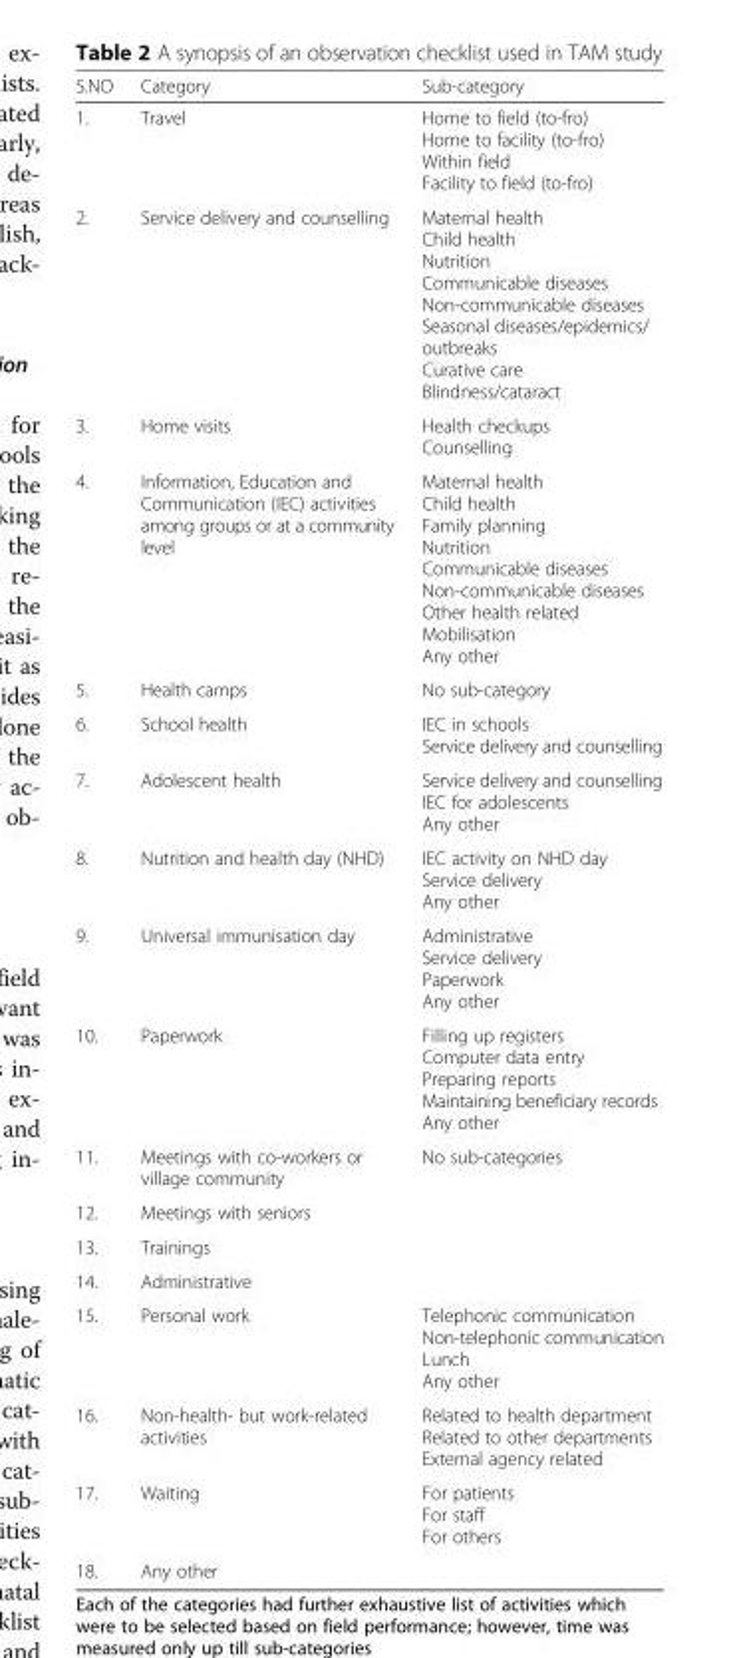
<table><thead><tr><td>S.NO</td><td>Category</td><td>Sub-category</td></tr></thead><tbody><tr><td>1.</td><td>Travel</td><td>Home to field (to-fro) Home to facility (to-fro) Within field Facility to field (to-fro)</td></tr><tr><td>2.</td><td>Service delivery and counselling</td><td>Maternal health Child health Nutrition Communicable diseases Non-communicable diseases Seasonal diseases/epidemics/ outbreaks Curative care Blindness/cataract</td></tr><tr><td>3.</td><td>Home visits</td><td>Health checkups Counselling</td></tr><tr><td>4.</td><td>Information, Education and Communication (IEC) activities among groups or at a community level</td><td>Maternal health Child health Family planning Nutrition Communicable diseases Non-communicable diseases Other health related Mobilisation Any other</td></tr><tr><td>5.</td><td>Health camps</td><td>No sub-category</td></tr><tr><td>6.</td><td>School health</td><td>IEC in schools Service delivery and counselling</td></tr><tr><td>7.</td><td>Adolescent health</td><td>Service delivery and counselling IEC for adolescents Any other</td></tr><tr><td>8.</td><td>Nutrition and health day (NHD)</td><td>IEC activity on NHD day Service delivery Any other</td></tr><tr><td>9.</td><td>Universal immunisation day</td><td>Administrative Service delivery Paperwork Any other</td></tr><tr><td>10.</td><td>Paperwork</td><td>Filling up registers Computer data entry Preparing reports Maintaining beneficiary records Any other</td></tr><tr><td>11.</td><td>Meetings with co-workers or village community</td><td rowspan="4">No sub-categories</td></tr><tr><td>12.</td><td>Meetings with seniors</td></tr><tr><td>13.</td><td>Trainings</td></tr><tr><td>14.</td><td>Administrative</td></tr><tr><td>15.</td><td>Personal work</td><td>Telephonic communication Non-telephonic communication Lunch Any other</td></tr><tr><td>16.</td><td>Non-health- but work-related activities</td><td>Related to health department Related to other departments External agency related</td></tr><tr><td>17.</td><td>Waiting</td><td>For patients For staff For others</td></tr><tr><td>18.</td><td>Any other</td><td></td></tr></tbody></table>